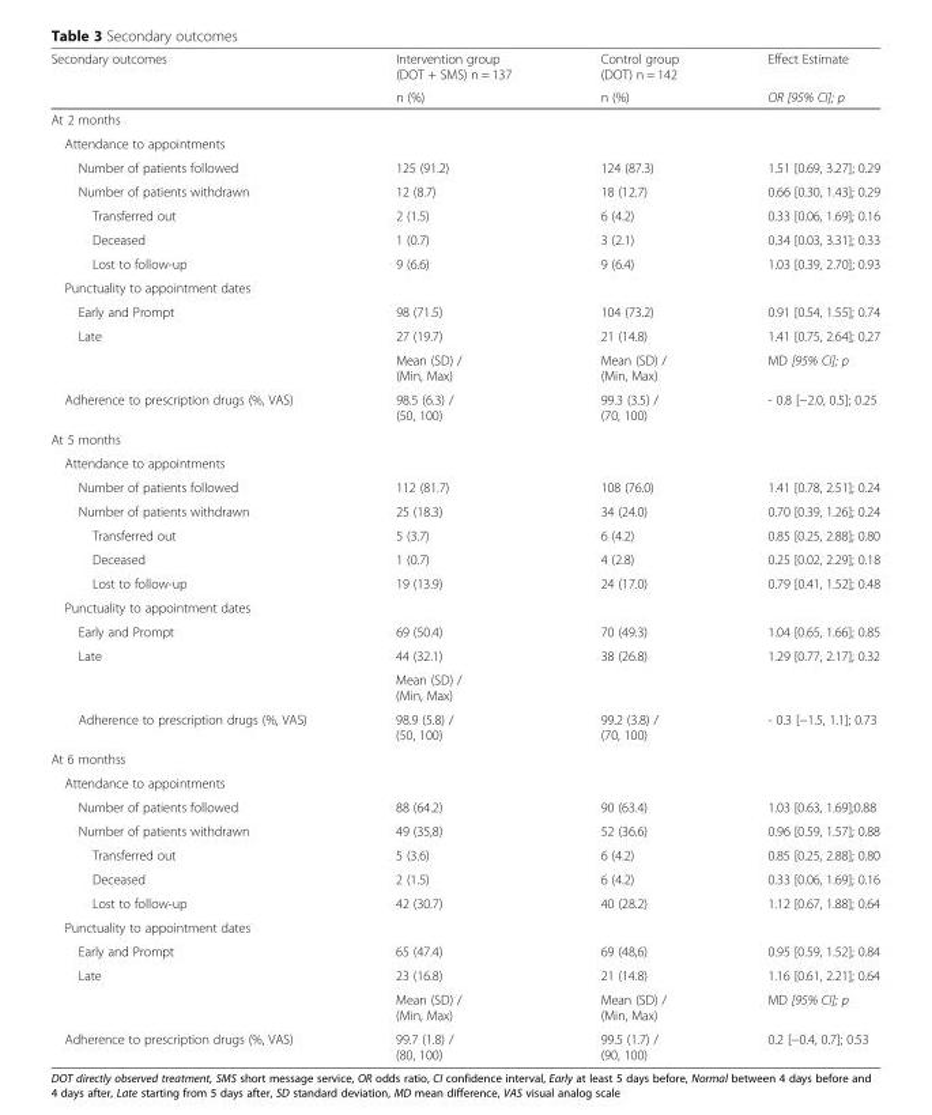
<table><thead><tr><td rowspan="2">Secondary outcomes</td><td rowspan="2">Intervention group (DOT + SMS) n = 137 n (%)</td><td rowspan="2">Control group (DOT) n = 142 n (%)</td><td rowspan="2">Effect Estimate OR [95% CI]; p</td></tr><tr></tr></thead><tbody><tr><td colspan="4">At 2 months</td></tr><tr><td colspan="4">Attendance to appointments</td></tr><tr><td>Number of patients followed</td><td>125 (91.2)</td><td>124 (87.3)</td><td>1.51 [0.69, 3.27]; 0.29</td></tr><tr><td>Number of patients withdrawn</td><td>12 (8.7)</td><td>18 (12.7)</td><td>0.66 [0.30, 1.43]; 0.29</td></tr><tr><td>Transferred out</td><td>2 (1.5)</td><td>6 (4.2)</td><td>0.33 [0.06, 1.69]; 0.16</td></tr><tr><td>Deceased</td><td>1 (0.7)</td><td>3 (2.1)</td><td>0.34 [0.03, 3.31]; 0.33</td></tr><tr><td>Lost to follow-up</td><td>9 (6.6)</td><td>9 (6.4)</td><td>1.03 [0.39, 2.70]; 0.93</td></tr><tr><td colspan="4">Punctuality to appointment dates</td></tr><tr><td>Early and Prompt</td><td>98 (71.5)</td><td>104 (73.2)</td><td>0.91 [0.54, 1.55]; 0.74</td></tr><tr><td rowspan="2">Late</td><td>27 (19.7)</td><td>21 (14.8)</td><td>1.41 [0.75, 2.64]; 0.27</td></tr><tr><td>Mean (SD) / (Min, Max)</td><td>Mean (SD) / (Min, Max)</td><td>MD [95% CI]; p</td></tr><tr><td>Adherence to prescription drugs (%, VAS)</td><td>98.5 (6.3) / (50, 100)</td><td>99.3 (3.5) / (70, 100)</td><td>- 0.8 [−2.0, 0.5]; 0.25</td></tr><tr><td colspan="4">At 5 months</td></tr><tr><td colspan="4">Attendance to appointments</td></tr><tr><td>Number of patients followed</td><td>112 (81.7)</td><td>108 (76.0)</td><td>1.41 [0.78, 2.51]; 0.24</td></tr><tr><td>Number of patients withdrawn</td><td>25 (18.3)</td><td>34 (24.0)</td><td>0.70 [0.39, 1.26]; 0.24</td></tr><tr><td>Transferred out</td><td>5 (3.7)</td><td>6 (4.2)</td><td>0.85 [0.25, 2.88]; 0.80</td></tr><tr><td>Deceased</td><td>1 (0.7)</td><td>4 (2.8)</td><td>0.25 [0.02, 2.29]; 0.18</td></tr><tr><td>Lost to follow-up</td><td>19 (13.9)</td><td>24 (17.0)</td><td>0.79 [0.41, 1.52]; 0.48</td></tr><tr><td colspan="4">Punctuality to appointment dates</td></tr><tr><td>Early and Prompt</td><td>69 (50.4)</td><td>70 (49.3)</td><td>1.04 [0.65, 1.66]; 0.85</td></tr><tr><td rowspan="2">Late</td><td>44 (32.1)</td><td>38 (26.8)</td><td>1.29 [0.77, 2.17]; 0.32</td></tr><tr><td>Mean (SD) / (Min, Max)</td><td></td><td></td></tr><tr><td>Adherence to prescription drugs (%, VAS)</td><td>98.9 (5.8) / (50, 100)</td><td>99.2 (3.8) / (70, 100)</td><td>- 0.3 [−1.5, 1.1]; 0.73</td></tr><tr><td colspan="4">At 6 monthss</td></tr><tr><td colspan="4">Attendance to appointments</td></tr><tr><td>Number of patients followed</td><td>88 (64.2)</td><td>90 (63.4)</td><td>1.03 [0.63, 1.69];0.88</td></tr><tr><td>Number of patients withdrawn</td><td>49 (35,8)</td><td>52 (36.6)</td><td>0.96 [0.59, 1.57]; 0.88</td></tr><tr><td>Transferred out</td><td>5 (3.6)</td><td>6 (4.2)</td><td>0.85 [0.25, 2.88]; 0.80</td></tr><tr><td>Deceased</td><td>2 (1.5)</td><td>6 (4.2)</td><td>0.33 [0.06, 1.69]; 0.16</td></tr><tr><td>Lost to follow-up</td><td>42 (30.7)</td><td>40 (28.2)</td><td>1.12 [0.67, 1.88]; 0.64</td></tr><tr><td colspan="4">Punctuality to appointment dates</td></tr><tr><td>Early and Prompt</td><td>65 (47.4)</td><td>69 (48,6)</td><td>0.95 [0.59, 1.52]; 0.84</td></tr><tr><td rowspan="2">Late</td><td>23 (16.8)</td><td>21 (14.8)</td><td>1.16 [0.61, 2.21]; 0.64</td></tr><tr><td>Mean (SD) / (Min, Max)</td><td>Mean (SD) / (Min, Max)</td><td>MD [95% CI]; p</td></tr><tr><td>Adherence to prescription drugs (%, VAS)</td><td>99.7 (1.8) / (80, 100)</td><td>99.5 (1.7) / (90, 100)</td><td>0.2 [−0.4, 0.7]; 0.53</td></tr></tbody></table>